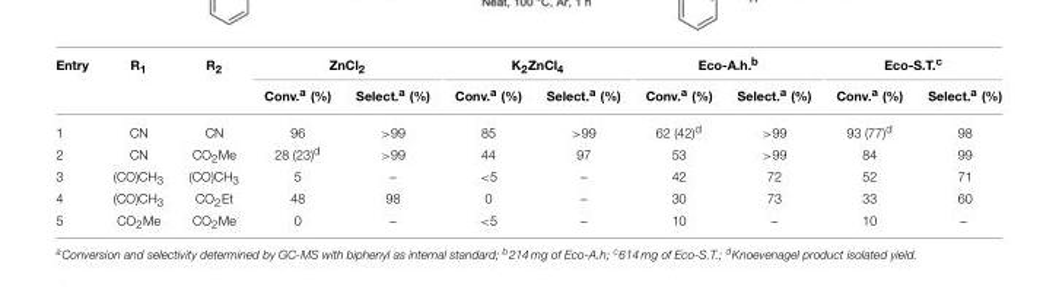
<table><thead><tr><td rowspan="2">Entry</td><td rowspan="2">R<sub>1</sub></td><td rowspan="2">R<sub>2</sub></td><td colspan="2">ZnCl<sub>2</sub></td><td colspan="2">K<sub>2</sub>ZnCl<sub>4</sub></td><td colspan="2">Eco-A.h.<sup>b</sup></td><td colspan="2">Eco-S.T.<sup>c</sup></td></tr><tr><td>Conv.<sup>a</sup> (%)</td><td>Select.<sup>a</sup> (%)</td><td>Conv.<sup>a</sup> (%)</td><td>Select.<sup>a</sup> (%)</td><td>Conv.<sup>a</sup> (%)</td><td>Select.<sup>a</sup> (%)</td><td>Conv.<sup>a</sup> (%)</td><td>Select.<sup>a</sup> (%)</td></tr></thead><tbody><tr><td>1</td><td>CN</td><td>CN</td><td>96</td><td>&gt;99</td><td>85</td><td>&gt;99</td><td>62 (42)<sup>d</sup></td><td>&gt;99</td><td>93 (77)<sup>d</sup></td><td>98</td></tr><tr><td>2</td><td>CN</td><td>CO<sub>2</sub>Me</td><td>28 (23)<sup>d</sup></td><td>&gt;99</td><td>44</td><td>97</td><td>53</td><td>&gt;99</td><td>84</td><td>99</td></tr><tr><td>3</td><td>(CO)CH<sub>3</sub></td><td>(CO)CH<sub>3</sub></td><td>5</td><td>–</td><td>&lt;5</td><td>–</td><td>42</td><td>72</td><td>52</td><td>71</td></tr><tr><td>4</td><td>(CO)CH<sub>3</sub></td><td>CO<sub>2</sub>Et</td><td>48</td><td>98</td><td>0</td><td>–</td><td>30</td><td>73</td><td>33</td><td>60</td></tr><tr><td>5</td><td>CO<sub>2</sub>Me</td><td>CO<sub>2</sub>Me</td><td>0</td><td>–</td><td>&lt;5</td><td>–</td><td>10</td><td>–</td><td>10</td><td>–</td></tr></tbody></table>